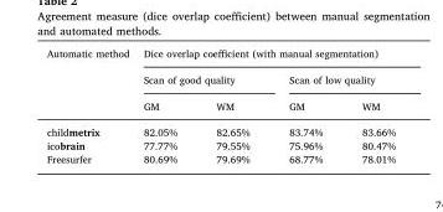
<table><thead><tr><td rowspan="3">Automatic method</td><td colspan="4">Dice overlap coefficient (with manual segmentation)</td></tr><tr><td colspan="2">Scan of good quality</td><td colspan="2">Scan of low quality</td></tr><tr><td>GM</td><td>WM</td><td>GM</td><td>WM</td></tr></thead><tbody><tr><td>childmetrix</td><td>82.05%</td><td>82.65%</td><td>83.74%</td><td>83.66%</td></tr><tr><td>icobrain</td><td>77.77%</td><td>79.55%</td><td>75.96%</td><td>80.47%</td></tr><tr><td>Freesurfer</td><td>80.69%</td><td>79.69%</td><td>68.77%</td><td>78.01%</td></tr></tbody></table>